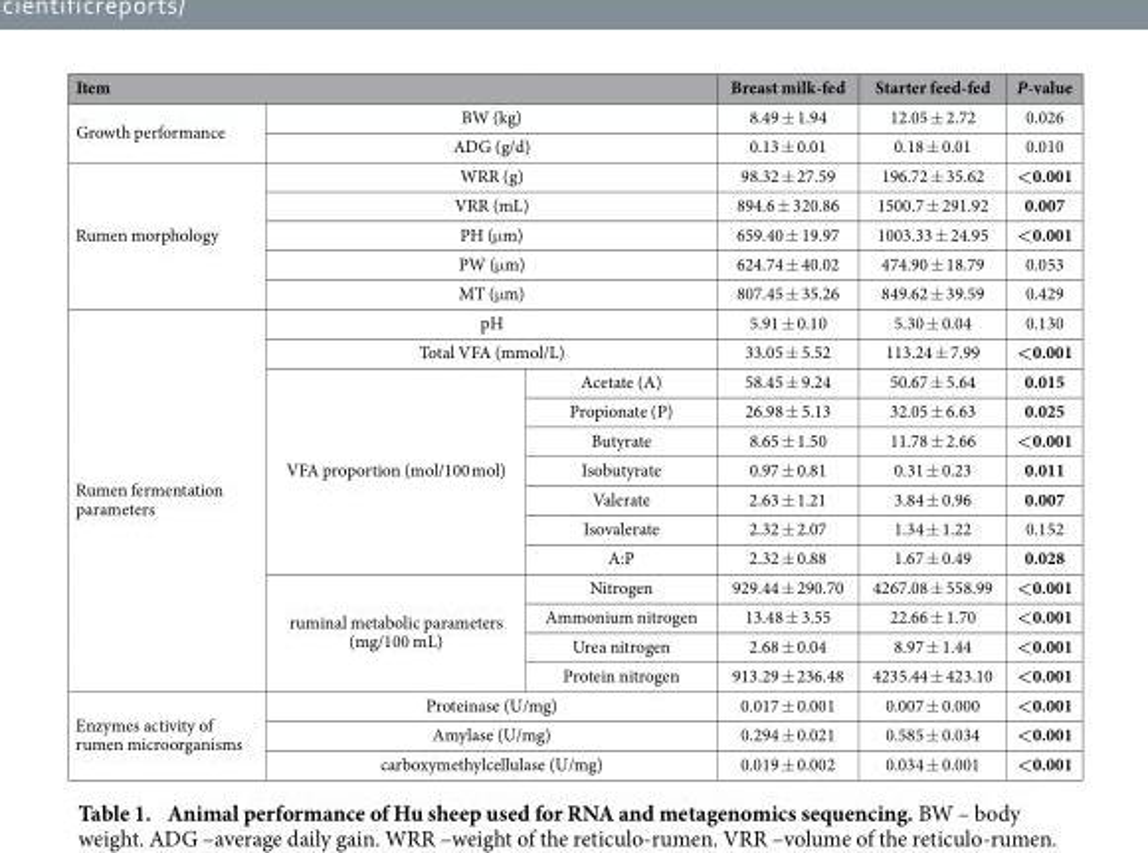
<table><thead><tr><td colspan="3">Item</td><td>Breast milk-fed</td><td>Starter feed-fed</td><td>P-value</td></tr></thead><tbody><tr><td rowspan="2">Growth performance</td><td colspan="2">BW (kg)</td><td>8.49 ± 1.94</td><td>12.05 ± 2.72</td><td>0.026</td></tr><tr><td colspan="2">ADG (g/d)</td><td>0.13 ± 0.01</td><td>0.18 ± 0.01</td><td>0.010</td></tr><tr><td rowspan="5">Rumen morphology</td><td colspan="2">WRR (g)</td><td>98.32 ± 27.59</td><td>196.72 ± 35.62</td><td>&lt;0.001</td></tr><tr><td colspan="2">VRR (mL)</td><td>894.6 ± 320.86</td><td>1500.7 ± 291.92</td><td>0.007</td></tr><tr><td colspan="2">PH (μ m)</td><td>659.40 ± 19.97</td><td>1003.33 ± 24.95</td><td>&lt;0.001</td></tr><tr><td colspan="2">PW (μ m)</td><td>624.74 ± 40.02</td><td>474.90 ± 18.79</td><td>0.053</td></tr><tr><td colspan="2">MT (μ m)</td><td>807.45 ± 35.26</td><td>849.62 ± 39.59</td><td>0.429</td></tr><tr><td rowspan="13">Rumen fermentation parameters</td><td colspan="2">pH</td><td>5.91 ± 0.10</td><td>5.30 ± 0.04</td><td>0.130</td></tr><tr><td colspan="2">Total VFA (mmol/L)</td><td>33.05 ± 5.52</td><td>113.24 ± 7.99</td><td>&lt;0.001</td></tr><tr><td rowspan="7">VFA proportion (mol/100 mol)</td><td>Acetate (A)</td><td>58.45 ± 9.24</td><td>50.67 ± 5.64</td><td>0.015</td></tr><tr><td>Propionate (P)</td><td>26.98 ± 5.13</td><td>32.05 ± 6.63</td><td>0.025</td></tr><tr><td>Butyrate</td><td>8.65 ± 1.50</td><td>11.78 ± 2.66</td><td>&lt;0.001</td></tr><tr><td>Isobutyrate</td><td>0.97 ± 0.81</td><td>0.31 ± 0.23</td><td>0.011</td></tr><tr><td>Valerate</td><td>2.63 ± 1.21</td><td>3.84 ± 0.96</td><td>0.007</td></tr><tr><td>Isovalerate</td><td>2.32 ± 2.07</td><td>1.34 ± 1.22</td><td>0.152</td></tr><tr><td>A:P</td><td>2.32 ± 0.88</td><td>1.67 ± 0.49</td><td>0.028</td></tr><tr><td rowspan="4">ruminal metabolic parameters (mg/100 mL)</td><td>Nitrogen</td><td>929.44 ± 290.70</td><td>4267.08 ± 558.99</td><td>&lt;0.001</td></tr><tr><td>Ammonium nitrogen</td><td>13.48 ± 3.55</td><td>22.66 ± 1.70</td><td>&lt;0.001</td></tr><tr><td>Urea nitrogen</td><td>2.68 ± 0.04</td><td>8.97 ± 1.44</td><td>&lt;0.001</td></tr><tr><td>Protein nitrogen</td><td>913.29 ± 236.48</td><td>4235.44 ± 423.10</td><td>&lt;0.001</td></tr><tr><td rowspan="3">Enzymes activity of rumen microorganisms</td><td colspan="2">Proteinase (U/mg)</td><td>0.017 ± 0.001</td><td>0.007 ± 0.000</td><td>&lt;0.001</td></tr><tr><td colspan="2">Amylase (U/mg)</td><td>0.294 ± 0.021</td><td>0.585 ± 0.034</td><td>&lt;0.001</td></tr><tr><td colspan="2">carboxymethylcellulase (U/mg)</td><td>0.019 ± 0.002</td><td>0.034 ± 0.001</td><td>&lt;0.001</td></tr></tbody></table>